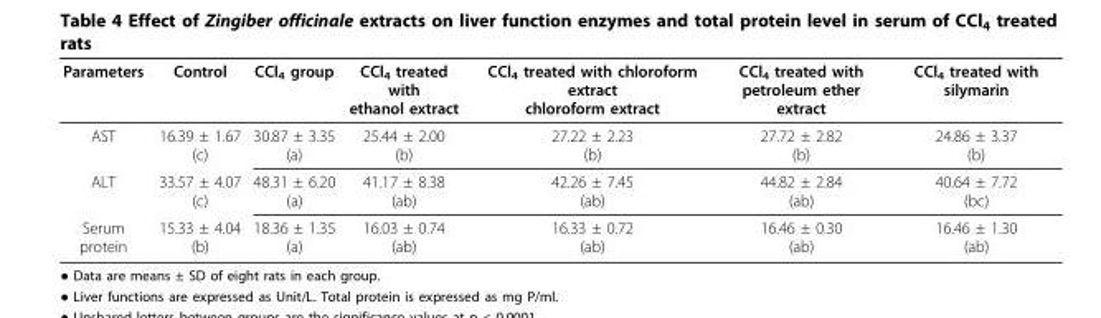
<table><thead><tr><td>Parameters</td><td>Control</td><td>CCl<sub>4</sub> group</td><td>CCl<sub>4</sub> treated with ethanol extract</td><td>CCl<sub>4</sub> treated with chloroform extract chloroform extract</td><td>CCl<sub>4</sub> treated with petroleum ether extract</td><td>CCl<sub>4</sub> treated with silymarin</td></tr></thead><tbody><tr><td>AST</td><td>16.39 ± 1.67 (c)</td><td>30.87 ± 3.35 (a)</td><td>25.44 ± 2.00 (b)</td><td>27.22 ± 2.23 (b)</td><td>27.72 ± 2.82 (b)</td><td>24.86 ± 3.37 (b)</td></tr><tr><td>ALT</td><td>33.57 ± 4.07 (c)</td><td>48.31 ± 6.20 (a)</td><td>41.17 ± 8.38 (ab)</td><td>42.26 ± 7.45 (ab)</td><td>44.82 ± 2.84 (ab)</td><td>40.64 ± 7.72 (bc)</td></tr><tr><td>Serum protein</td><td>15.33 ± 4.04 (b)</td><td>18.36 ± 1.35 (a)</td><td>16.03 ± 0.74 (ab)</td><td>16.33 ± 0.72 (ab)</td><td>16.46 ± 0.30 (ab)</td><td>16.46 ± 1.30 (ab)</td></tr></tbody></table>